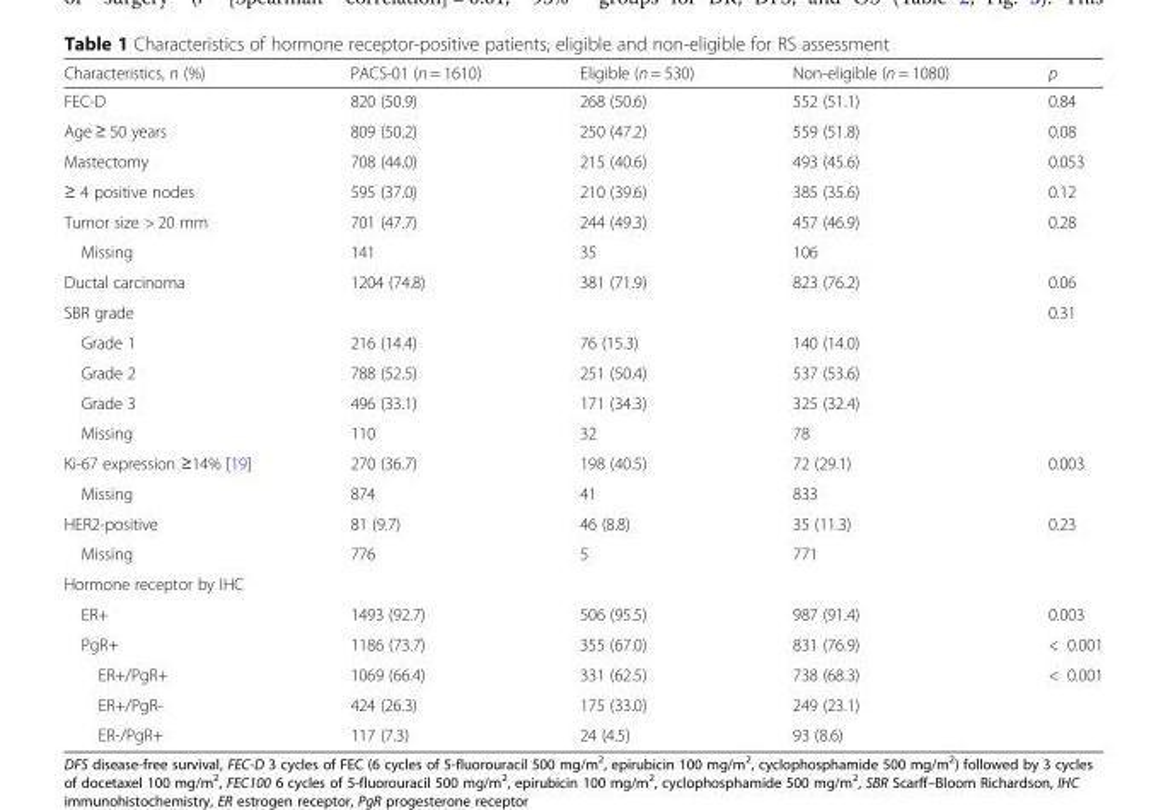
<table><thead><tr><td>Characteristics, n (%)</td><td>PACS-01 (n = 1610)</td><td>Eligible (n = 530)</td><td>Non-eligible (n = 1080)</td><td>p</td></tr></thead><tbody><tr><td>FEC-D</td><td>820 (50.9)</td><td>268 (50.6)</td><td>552 (51.1)</td><td>0.84</td></tr><tr><td>Age ≥ 50 years</td><td>809 (50.2)</td><td>250 (47.2)</td><td>559 (51.8)</td><td>0.08</td></tr><tr><td>Mastectomy</td><td>708 (44.0)</td><td>215 (40.6)</td><td>493 (45.6)</td><td>0.053</td></tr><tr><td>≥ 4 positive nodes</td><td>595 (37.0)</td><td>210 (39.6)</td><td>385 (35.6)</td><td>0.12</td></tr><tr><td>Tumor size &gt; 20 mm</td><td>701 (47.7)</td><td>244 (49.3)</td><td>457 (46.9)</td><td>0.28</td></tr><tr><td>Missing</td><td>141</td><td>35</td><td>106</td><td></td></tr><tr><td>Ductal carcinoma</td><td>1204 (74.8)</td><td>381 (71.9)</td><td>823 (76.2)</td><td>0.06</td></tr><tr><td>SBR grade</td><td></td><td></td><td></td><td>0.31</td></tr><tr><td>Grade 1</td><td>216 (14.4)</td><td>76 (15.3)</td><td>140 (14.0)</td><td></td></tr><tr><td>Grade 2</td><td>788 (52.5)</td><td>251 (50.4)</td><td>537 (53.6)</td><td></td></tr><tr><td>Grade 3</td><td>496 (33.1)</td><td>171 (34.3)</td><td>325 (32.4)</td><td></td></tr><tr><td>Missing</td><td>110</td><td>32</td><td>78</td><td></td></tr><tr><td>Ki-67 expression ≥14% [19]</td><td>270 (36.7)</td><td>198 (40.5)</td><td>72 (29.1)</td><td>0.003</td></tr><tr><td>Missing</td><td>874</td><td>41</td><td>833</td><td></td></tr><tr><td>HER2-positive</td><td>81 (9.7)</td><td>46 (8.8)</td><td>35 (11.3)</td><td>0.23</td></tr><tr><td>Missing</td><td>776</td><td>5</td><td>771</td><td></td></tr><tr><td colspan="5">Hormone receptor by IHC</td></tr><tr><td>ER+</td><td>1493 (92.7)</td><td>506 (95.5)</td><td>987 (91.4)</td><td>0.003</td></tr><tr><td>PgR+</td><td>1186 (73.7)</td><td>355 (67.0)</td><td>831 (76.9)</td><td>&lt; 0.001</td></tr><tr><td>ER+/PgR+</td><td>1069 (66.4)</td><td>331 (62.5)</td><td>738 (68.3)</td><td>&lt; 0.001</td></tr><tr><td>ER+/PgR-</td><td>424 (26.3)</td><td>175 (33.0)</td><td>249 (23.1)</td><td></td></tr><tr><td>ER-/PgR+</td><td>117 (7.3)</td><td>24 (4.5)</td><td>93 (8.6)</td><td></td></tr></tbody></table>